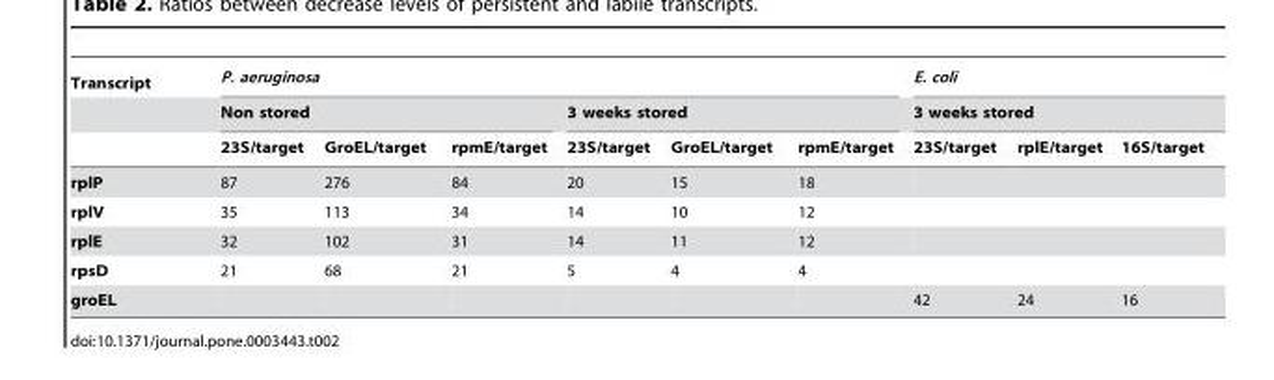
<table><thead><tr><td rowspan="3">Transcript</td><td colspan="6">P. aeruginosa</td><td rowspan="2" colspan="3">E. coli 3 weeks stored</td></tr><tr><td colspan="3">Non stored</td><td colspan="3">3 weeks stored</td></tr><tr><td>23S/target</td><td>GroEL/target</td><td>rpmE/target</td><td>23S/target</td><td>GroEL/target</td><td>rpmE/target</td><td>23S/target</td><td>rplE/target</td><td>16S/target</td></tr></thead><tbody><tr><td>rplP</td><td>87</td><td>276</td><td>84</td><td>20</td><td>15</td><td>18</td><td></td><td></td><td></td></tr><tr><td>rplV</td><td>35</td><td>113</td><td>34</td><td>14</td><td>10</td><td>12</td><td></td><td></td><td></td></tr><tr><td>rplE</td><td>32</td><td>102</td><td>31</td><td>14</td><td>11</td><td>12</td><td></td><td></td><td></td></tr><tr><td>rpsD</td><td>21</td><td>68</td><td>21</td><td>5</td><td>4</td><td>4</td><td></td><td></td><td></td></tr><tr><td>groEL</td><td></td><td></td><td></td><td></td><td></td><td></td><td>42</td><td>24</td><td>16</td></tr></tbody></table>